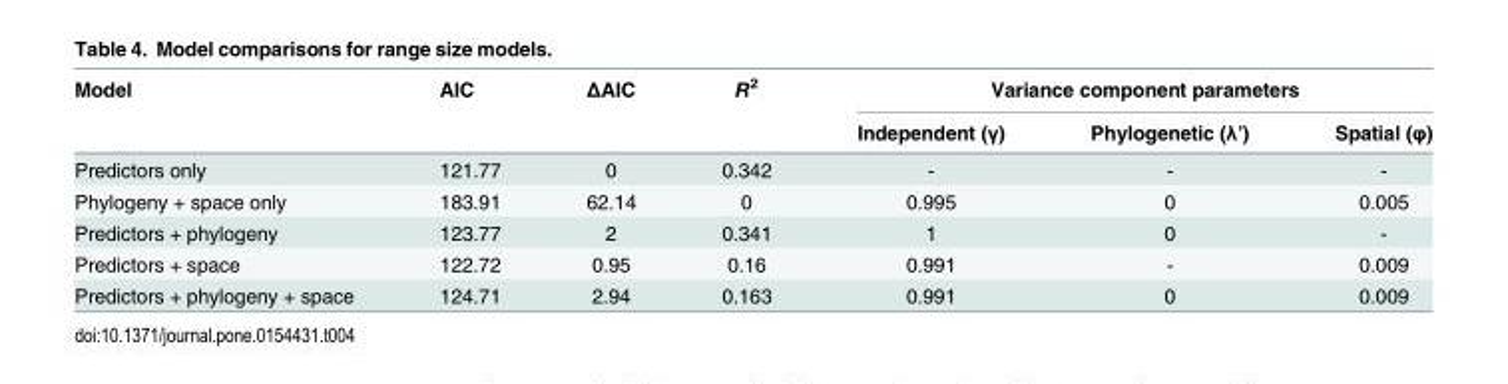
<table><thead><tr><td rowspan="2">Model</td><td rowspan="2">AIC</td><td rowspan="2">ΔAIC</td><td rowspan="2">R<sup>2</sup></td><td colspan="3">Variance component parameters</td></tr><tr><td>Independent (γ)</td><td>Phylogenetic (λ’)</td><td>Spatial (φ)</td></tr></thead><tbody><tr><td>Predictors only</td><td>121.77</td><td>0</td><td>0.342</td><td>-</td><td>-</td><td>-</td></tr><tr><td>Phylogeny + space only</td><td>183.91</td><td>62.14</td><td>0</td><td>0.995</td><td>0</td><td>0.005</td></tr><tr><td>Predictors + phylogeny</td><td>123.77</td><td>2</td><td>0.341</td><td>1</td><td>0</td><td>-</td></tr><tr><td>Predictors + space</td><td>122.72</td><td>0.95</td><td>0.16</td><td>0.991</td><td>-</td><td>0.009</td></tr><tr><td>Predictors + phylogeny + space</td><td>124.71</td><td>2.94</td><td>0.163</td><td>0.991</td><td>0</td><td>0.009</td></tr></tbody></table>